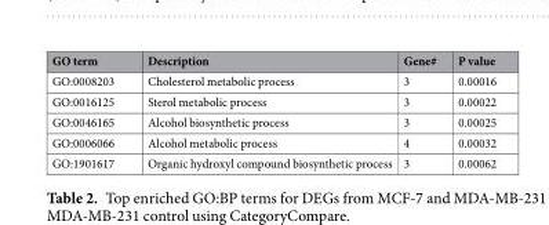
<table><thead><tr><td>GO term</td><td>Description</td><td>Gene#</td><td>P value</td></tr></thead><tbody><tr><td>GO:0008203</td><td>Cholesterol metabolic process</td><td>3</td><td>0.00016</td></tr><tr><td>GO:0016125</td><td>Sterol metabolic process</td><td>3</td><td>0.00022</td></tr><tr><td>GO:0046165</td><td>Alcohol biosynthetic process</td><td>3</td><td>0.00025</td></tr><tr><td>GO:0006066</td><td>Alcohol metabolic process</td><td>4</td><td>0.00032</td></tr><tr><td>GO:1901617</td><td>Organic hydroxyl compound biosynthetic process</td><td>3</td><td>0.00062</td></tr></tbody></table>